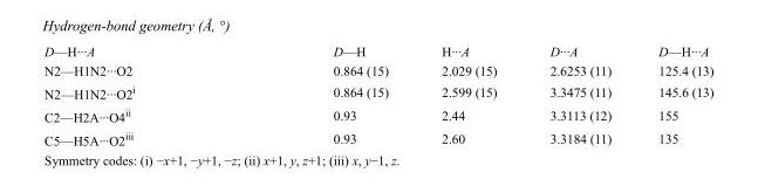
<table><tbody><tr><td>D—H···A</td><td>D—H</td><td>H···A</td><td>D···A</td><td>D—H···A</td></tr><tr><td>N2—H1N2···O2</td><td>0.864 (15)</td><td>2.029 (15)</td><td>2.6253 (11)</td><td>125.4 (13)</td></tr><tr><td>N2—H1N2···O2<sup>i</sup></td><td>0.864 (15)</td><td>2.599 (15)</td><td>3.3475 (11)</td><td>145.6 (13)</td></tr><tr><td>C2—H2A···O4<sup>ii</sup></td><td>0.93</td><td>2.44</td><td>3.3113 (12)</td><td>155</td></tr><tr><td>C5—H5A···O2<sup>iii</sup></td><td>0.93</td><td>2.60</td><td>3.3184 (11)</td><td>135</td></tr></tbody></table>